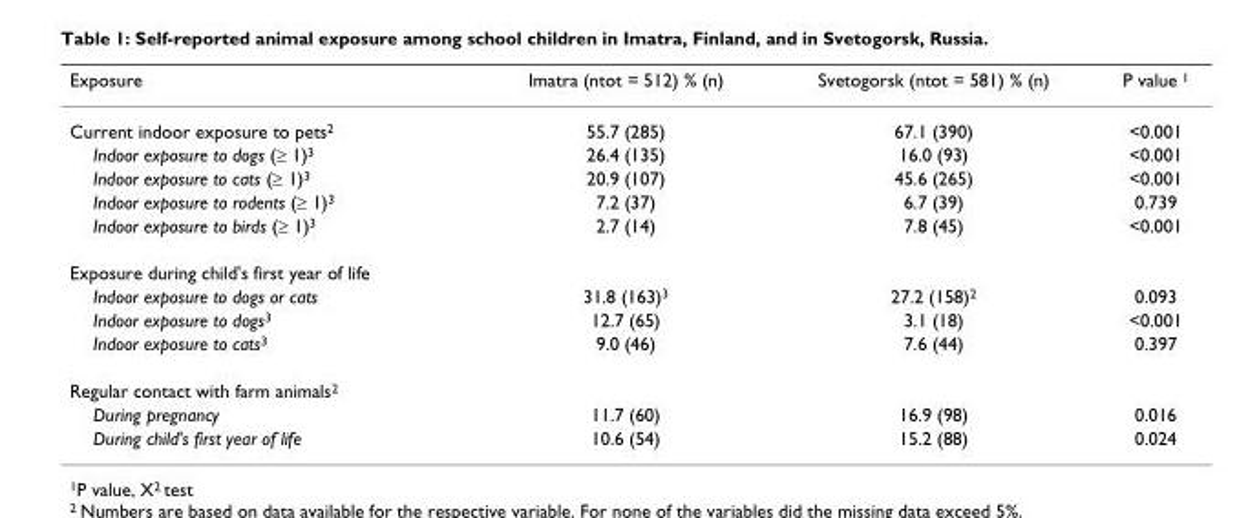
<table><thead><tr><td>Exposure</td><td>Imatra (ntot = 512) % (n)</td><td>Svetogorsk (ntot = 581) % (n)</td><td>P value <sup>1</sup></td></tr></thead><tbody><tr><td>Current indoor exposure to pets<sup>2</sup></td><td>55.7 (285)</td><td>67.1 (390)</td><td>&lt;0.001</td></tr><tr><td>Indoor exposure to dogs (≥ 1)<sup>3</sup></td><td>26.4 (135)</td><td>16.0 (93)</td><td>&lt;0.001</td></tr><tr><td>Indoor exposure to cats (≥ 1)<sup>3</sup></td><td>20.9 (107)</td><td>45.6 (265)</td><td>&lt;0.001</td></tr><tr><td>Indoor exposure to rodents (≥ 1)<sup>3</sup></td><td>7.2 (37)</td><td>6.7 (39)</td><td>0.739</td></tr><tr><td>Indoor exposure to birds (≥ 1)<sup>3</sup></td><td>2.7 (14)</td><td>7.8 (45)</td><td>&lt;0.001</td></tr><tr><td colspan="4">Exposure during child&#x27;s first year of life</td></tr><tr><td>Indoor exposure to dogs or cats</td><td>31.8 (163)<sup>3</sup></td><td>27.2 (158)<sup>2</sup></td><td>0.093</td></tr><tr><td>Indoor exposure to dogs<sup>3</sup></td><td>12.7 (65)</td><td>3.1 (18)</td><td>&lt;0.001</td></tr><tr><td>Indoor exposure to cats<sup>3</sup></td><td>9.0 (46)</td><td>7.6 (44)</td><td>0.397</td></tr><tr><td colspan="4">Regular contact with farm animals<sup>2</sup></td></tr><tr><td>During pregnancy</td><td>11.7 (60)</td><td>16.9 (98)</td><td>0.016</td></tr><tr><td>During child&#x27;s first year of life</td><td>10.6 (54)</td><td>15.2 (88)</td><td>0.024</td></tr></tbody></table>